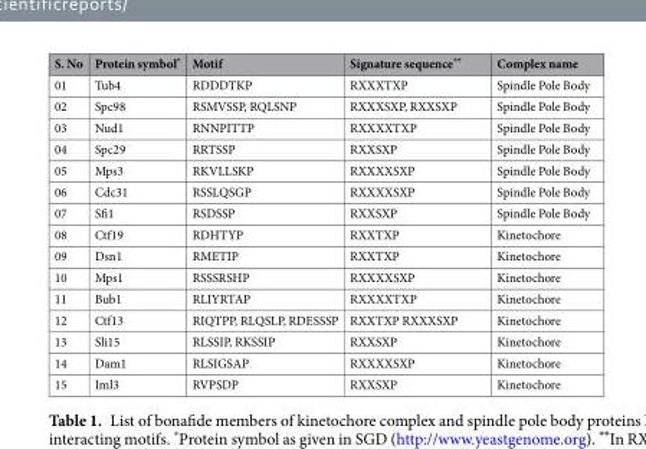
<table><thead><tr><td>S. No</td><td>Protein symbol*</td><td>Motif</td><td>Signature sequence**</td><td>Complex name</td></tr></thead><tbody><tr><td>01</td><td>Tub4</td><td>RDDDTKP</td><td>RXXXTXP</td><td>Spindle Pole Body</td></tr><tr><td>02</td><td>Spc98</td><td>RSMVSSP, RQLSNP</td><td>RXXXSXP, RXXSXP</td><td>Spindle Pole Body</td></tr><tr><td>03</td><td>Nud1</td><td>RNNPITTP</td><td>RXXXXTXP</td><td>Spindle Pole Body</td></tr><tr><td>04</td><td>Spc29</td><td>RRTSSP</td><td>RXXSXP</td><td>Spindle Pole Body</td></tr><tr><td>05</td><td>Mps3</td><td>RKVLLSKP</td><td>RXXXXSXP</td><td>Spindle Pole Body</td></tr><tr><td>06</td><td>Cdc31</td><td>RSSLQSGP</td><td>RXXXXSXP</td><td>Spindle Pole Body</td></tr><tr><td>07</td><td>Sfi1</td><td>RSDSSP</td><td>RXXSXP</td><td>Spindle Pole Body</td></tr><tr><td>08</td><td>Ctf19</td><td>RDHTYP</td><td>RXXTXP</td><td>Kinetochore</td></tr><tr><td>09</td><td>Dsn1</td><td>RMETIP</td><td>RXXTXP</td><td>Kinetochore</td></tr><tr><td>10</td><td>Mps1</td><td>RSSSRSHP</td><td>RXXXXSXP</td><td>Kinetochore</td></tr><tr><td>11</td><td>Bub1</td><td>RLIYRTAP</td><td>RXXXXTXP</td><td>Kinetochore</td></tr><tr><td>12</td><td>Ctf13</td><td>RIQTPP, RLQSLP, RDESSSP</td><td>RXXTXP RXXXSXP</td><td>Kinetochore</td></tr><tr><td>13</td><td>Sli15</td><td>RLSSIP, RKSSIP</td><td>RXXSXP</td><td>Kinetochore</td></tr><tr><td>14</td><td>Dam1</td><td>RLSIGSAP</td><td>RXXXXSXP</td><td>Kinetochore</td></tr><tr><td>15</td><td>Iml3</td><td>RVPSDP</td><td>RXXSXP</td><td>Kinetochore</td></tr></tbody></table>